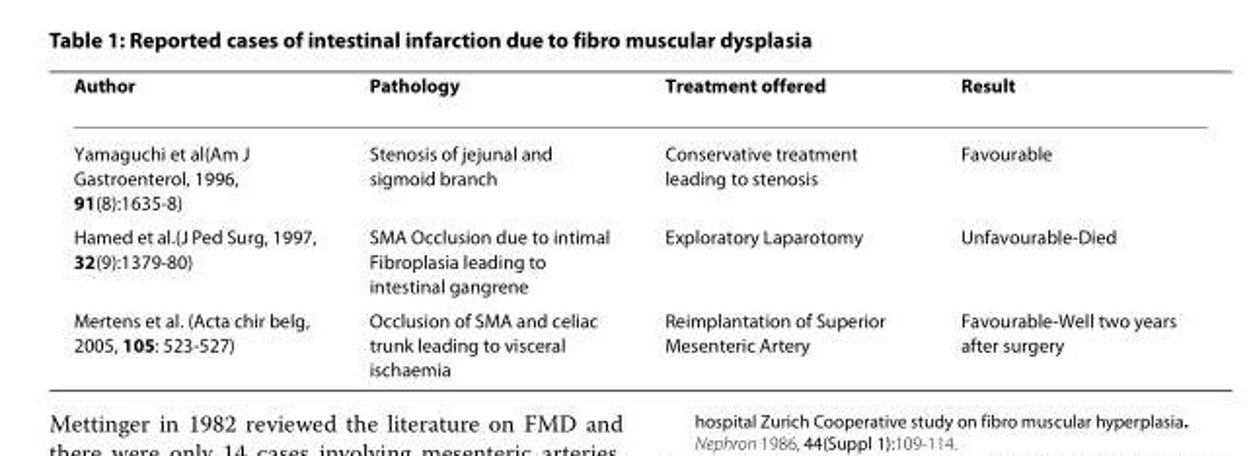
<table><thead><tr><td>Author</td><td>Pathology</td><td>Treatment offered</td><td>Result</td></tr></thead><tbody><tr><td>Yamaguchi et al(Am J Gastroenterol, 1996, 91(8):1635-8)</td><td>Stenosis of jejunal and sigmoid branch</td><td>Conservative treatment leading to stenosis</td><td>Favourable</td></tr><tr><td>Hamed et al.(J Ped Surg, 1997, 32(9):1379-80)</td><td>SMA Occlusion due to intimal Fibroplasia leading to intestinal gangrene</td><td>Exploratory Laparotomy</td><td>Unfavourable-Died</td></tr><tr><td>Mertens et al. (Acta chir belg, 2005, 105: 523-527)</td><td>Occlusion of SMA and celiac trunk leading to visceral ischaemia</td><td>Reimplantation of Superior Mesenteric Artery</td><td>Favourable-Well two years after surgery</td></tr></tbody></table>